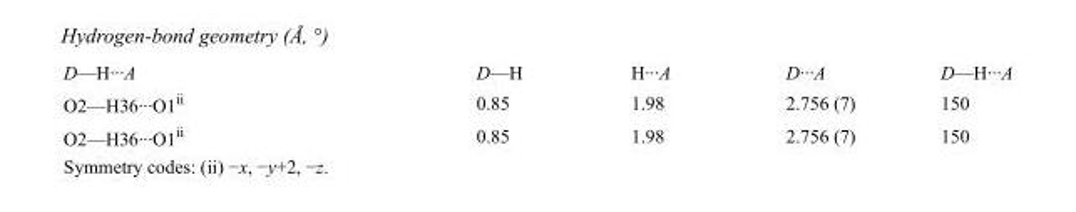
<table><tbody><tr><td>D—H···A</td><td>D—H</td><td>H···A</td><td>D···A</td><td>D—H···A</td></tr><tr><td>O2—H36···O1<sup>ii</sup></td><td>0.85</td><td>1.98</td><td>2.756 (7)</td><td>150</td></tr><tr><td>O2—H36···O1<sup>ii</sup></td><td>0.85</td><td>1.98</td><td>2.756 (7)</td><td>150</td></tr></tbody></table>